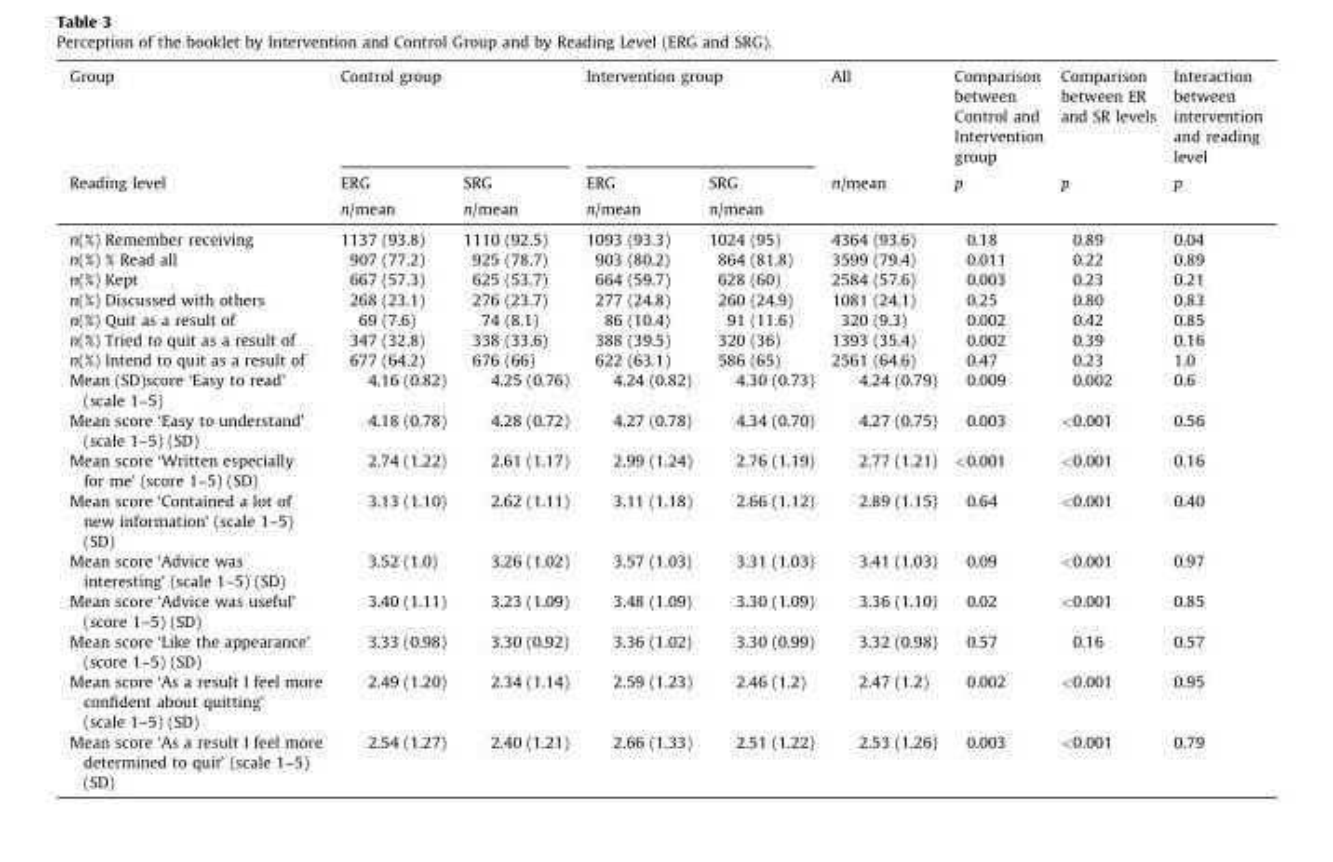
<table><thead><tr><td rowspan="3">Group Reading level</td><td colspan="2">Control group</td><td colspan="2">Intervention group</td><td rowspan="3">All n/mean</td><td rowspan="3">Comparison between Control and Intervention group p</td><td rowspan="3">Comparison between ER and SR levels p</td><td rowspan="3">Interaction between intervention and reading level p</td></tr><tr><td rowspan="2">ERG n/mean</td><td rowspan="2">SRG n/mean</td><td rowspan="2">ERG n/mean</td><td rowspan="2">SRG n/mean</td></tr><tr></tr></thead><tbody><tr><td>n(%) Remember receiving</td><td>1137 (93.8)</td><td>1110 (92.5)</td><td>1093 (93.3)</td><td>1024 (95)</td><td>4364 (93.6)</td><td>0.18</td><td>0.89</td><td>0.04</td></tr><tr><td>n(%) % Read all</td><td>907 (77.2)</td><td>925 (78.7)</td><td>903 (80.2)</td><td>864 (81.8)</td><td>3599 (79.4)</td><td>0.011</td><td>0.22</td><td>0.89</td></tr><tr><td>n(%) Kept</td><td>667 (57.3)</td><td>625 (53.7)</td><td>664 (59.7)</td><td>628 (60)</td><td>2584 (57.6)</td><td>0.003</td><td>0.23</td><td>0.21</td></tr><tr><td>n(%) Discussed with others</td><td>268 (23.1)</td><td>276 (23.7)</td><td>277 (24.8)</td><td>260 (24.9)</td><td>1081 (24.1)</td><td>0.25</td><td>0.80</td><td>0.83</td></tr><tr><td>n(%) Quit as a result of</td><td>69 (7.6)</td><td>74 (8.1)</td><td>86 (10.4)</td><td>91 (11.6)</td><td>320 (9.3)</td><td>0.002</td><td>0.42</td><td>0.85</td></tr><tr><td>n(%) Tried to quit as a result of</td><td>347 (32.8)</td><td>338 (33.6)</td><td>388 (39.5)</td><td>320 (36)</td><td>1393 (35.4)</td><td>0.002</td><td>0.39</td><td>0.16</td></tr><tr><td>n(%) Intend to quit as a result of</td><td>677 (64.2)</td><td>676 (66)</td><td>622 (63.1)</td><td>586 (65)</td><td>2561 (64.6)</td><td>0.47</td><td>0.23</td><td>1.0</td></tr><tr><td>Mean (SD)score ‘Easy to read’ (scale 1–5)</td><td>4.16 (0.82)</td><td>4.25 (0.76)</td><td>4.24 (0.82)</td><td>4.30 (0.73)</td><td>4.24 (0.79)</td><td>0.009</td><td>0.002</td><td>0.6</td></tr><tr><td>Mean score ‘Easy to understand’ (scale 1–5) (SD)</td><td>4.18 (0.78)</td><td>4.28 (0.72)</td><td>4.27 (0.78)</td><td>4.34 (0.70)</td><td>4.27 (0.75)</td><td>0.003</td><td>&lt;0.001</td><td>0.56</td></tr><tr><td>Mean score ‘Written especially for me’ (score 1–5) (SD)</td><td>2.74 (1.22)</td><td>2.61 (1.17)</td><td>2.99 (1.24)</td><td>2.76 (1.19)</td><td>2.77 (1.21)</td><td>&lt;0.001</td><td>&lt;0.001</td><td>0.16</td></tr><tr><td>Mean score ‘Contained a lot of new information’ (scale 1–5) (SD)</td><td>3.13 (1.10)</td><td>2.62 (1.11)</td><td>3.11 (1.18)</td><td>2.66 (1.12)</td><td>2.89 (1.15)</td><td>0.64</td><td>&lt;0.001</td><td>0.40</td></tr><tr><td>Mean score ‘Advice was interesting’ (scale 1–5) (SD)</td><td>3.52 (1.0)</td><td>3.26 (1.02)</td><td>3.57 (1.03)</td><td>3.31 (1.03)</td><td>3.41 (1.03)</td><td>0.09</td><td>&lt;0.001</td><td>0.97</td></tr><tr><td>Mean score ‘Advice was useful’ (score 1–5) (SD)</td><td>3.40 (1.11)</td><td>3.23 (1.09)</td><td>3.48 (1.09)</td><td>3.30 (1.09)</td><td>3.36 (1.10)</td><td>0.02</td><td>&lt;0.001</td><td>0.85</td></tr><tr><td>Mean score ‘Like the appearance’ (score 1–5) (SD)</td><td>3.33 (0.98)</td><td>3.30 (0.92)</td><td>3.36 (1.02)</td><td>3.30 (0.99)</td><td>3.32 (0.98)</td><td>0.57</td><td>0.16</td><td>0.57</td></tr><tr><td>Mean score ‘As a result I feel more confident about quitting’ (scale 1–5) (SD)</td><td>2.49 (1.20)</td><td>2.34 (1.14)</td><td>2.59 (1.23)</td><td>2.46 (1.2)</td><td>2.47 (1.2)</td><td>0.002</td><td>&lt;0.001</td><td>0.95</td></tr><tr><td>Mean score ‘As a result I feel more determined to quit’ (scale 1–5) (SD)</td><td>2.54 (1.27)</td><td>2.40 (1.21)</td><td>2.66 (1.33)</td><td>2.51 (1.22)</td><td>2.53 (1.26)</td><td>0.003</td><td>&lt;0.001</td><td>0.79</td></tr></tbody></table>